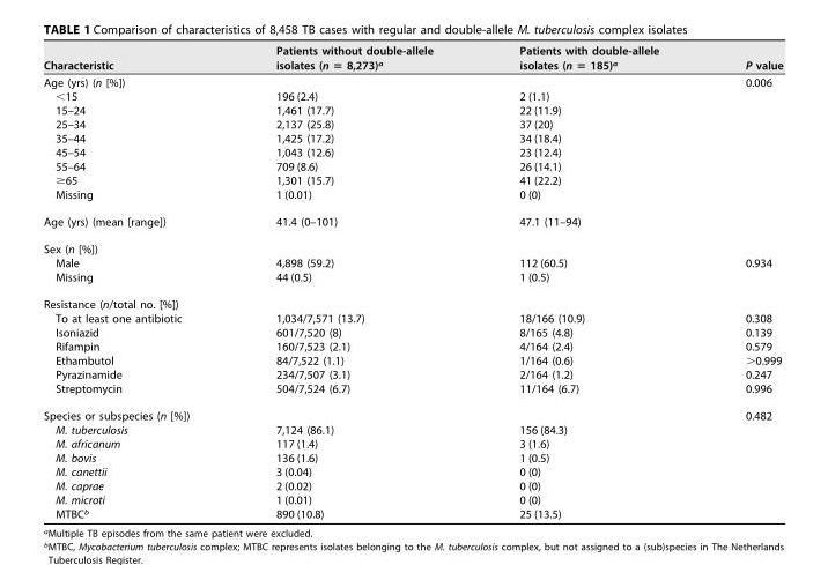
<table><thead><tr><td>Characteristic</td><td>Patients without double-allele isolates (n = 8,273)<sup>a</sup></td><td>Patients with double-allele isolates (n = 185)<sup>a</sup></td><td>P value</td></tr></thead><tbody><tr><td>Age (yrs) (n [%])</td><td></td><td></td><td>0.006</td></tr><tr><td>&lt;15</td><td>196 (2.4)</td><td>2 (1.1)</td><td></td></tr><tr><td>15–24</td><td>1,461 (17.7)</td><td>22 (11.9)</td><td></td></tr><tr><td>25–34</td><td>2,137 (25.8)</td><td>37 (20)</td><td></td></tr><tr><td>35–44</td><td>1,425 (17.2)</td><td>34 (18.4)</td><td></td></tr><tr><td>45–54</td><td>1,043 (12.6)</td><td>23 (12.4)</td><td></td></tr><tr><td>55–64</td><td>709 (8.6)</td><td>26 (14.1)</td><td></td></tr><tr><td>≥65</td><td>1,301 (15.7)</td><td>41 (22.2)</td><td></td></tr><tr><td>Missing</td><td>1 (0.01)</td><td>0 (0)</td><td></td></tr><tr><td>Age (yrs) (mean [range])</td><td>41.4 (0–101)</td><td>47.1 (11–94)</td><td></td></tr><tr><td colspan="4">Sex (n [%])</td></tr><tr><td>Male</td><td>4,898 (59.2)</td><td>112 (60.5)</td><td>0.934</td></tr><tr><td>Missing</td><td>44 (0.5)</td><td>1 (0.5)</td><td></td></tr><tr><td colspan="4">Resistance (n/total no. [%])</td></tr><tr><td>To at least one antibiotic</td><td>1,034/7,571 (13.7)</td><td>18/166 (10.9)</td><td>0.308</td></tr><tr><td>Isoniazid</td><td>601/7,520 (8)</td><td>8/165 (4.8)</td><td>0.139</td></tr><tr><td>Rifampin</td><td>160/7,523 (2.1)</td><td>4/164 (2.4)</td><td>0.579</td></tr><tr><td>Ethambutol</td><td>84/7,522 (1.1)</td><td>1/164 (0.6)</td><td>&gt;0.999</td></tr><tr><td>Pyrazinamide</td><td>234/7,507 (3.1)</td><td>2/164 (1.2)</td><td>0.247</td></tr><tr><td>Streptomycin</td><td>504/7,524 (6.7)</td><td>11/164 (6.7)</td><td>0.996</td></tr><tr><td>Species or subspecies (n [%])</td><td></td><td></td><td>0.482</td></tr><tr><td>M. tuberculosis</td><td>7,124 (86.1)</td><td>156 (84.3)</td><td></td></tr><tr><td>M. africanum</td><td>117 (1.4)</td><td>3 (1.6)</td><td></td></tr><tr><td>M. bovis</td><td>136 (1.6)</td><td>1 (0.5)</td><td></td></tr><tr><td>M. canettii</td><td>3 (0.04)</td><td>0 (0)</td><td></td></tr><tr><td>M. caprae</td><td>2 (0.02)</td><td>0 (0)</td><td></td></tr><tr><td>M. microti</td><td>1 (0.01)</td><td>0 (0)</td><td></td></tr><tr><td>MTBC<sup>b</sup></td><td>890 (10.8)</td><td>25 (13.5)</td><td></td></tr></tbody></table>